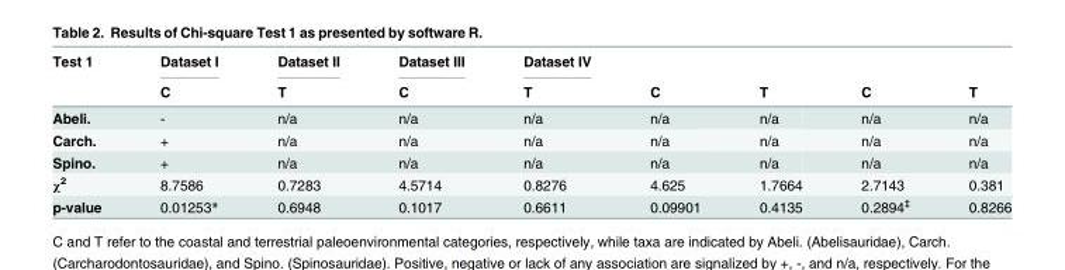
<table><thead><tr><td rowspan="2">Test 1</td><td rowspan="2">Dataset I C</td><td rowspan="2">Dataset II T</td><td rowspan="2">Dataset III C</td><td rowspan="2">Dataset IV T</td><td rowspan="2">C</td><td rowspan="2">T</td><td rowspan="2">C</td><td rowspan="2">T</td></tr><tr></tr></thead><tbody><tr><td>Abeli.</td><td>-</td><td>n/a</td><td>n/a</td><td>n/a</td><td>n/a</td><td>n/a</td><td>n/a</td><td>n/a</td></tr><tr><td>Carch.</td><td>+</td><td>n/a</td><td>n/a</td><td>n/a</td><td>n/a</td><td>n/a</td><td>n/a</td><td>n/a</td></tr><tr><td>Spino.</td><td>+</td><td>n/a</td><td>n/a</td><td>n/a</td><td>n/a</td><td>n/a</td><td>n/a</td><td>n/a</td></tr><tr><td>χ<sup>2</sup></td><td>8.7586</td><td>0.7283</td><td>4.5714</td><td>0.8276</td><td>4.625</td><td>1.7664</td><td>2.7143</td><td>0.381</td></tr><tr><td>p-value</td><td>0.01253*</td><td>0.6948</td><td>0.1017</td><td>0.6611</td><td>0.09901</td><td>0.4135</td><td>0.2894<sup>‡</sup></td><td>0.8266</td></tr></tbody></table>